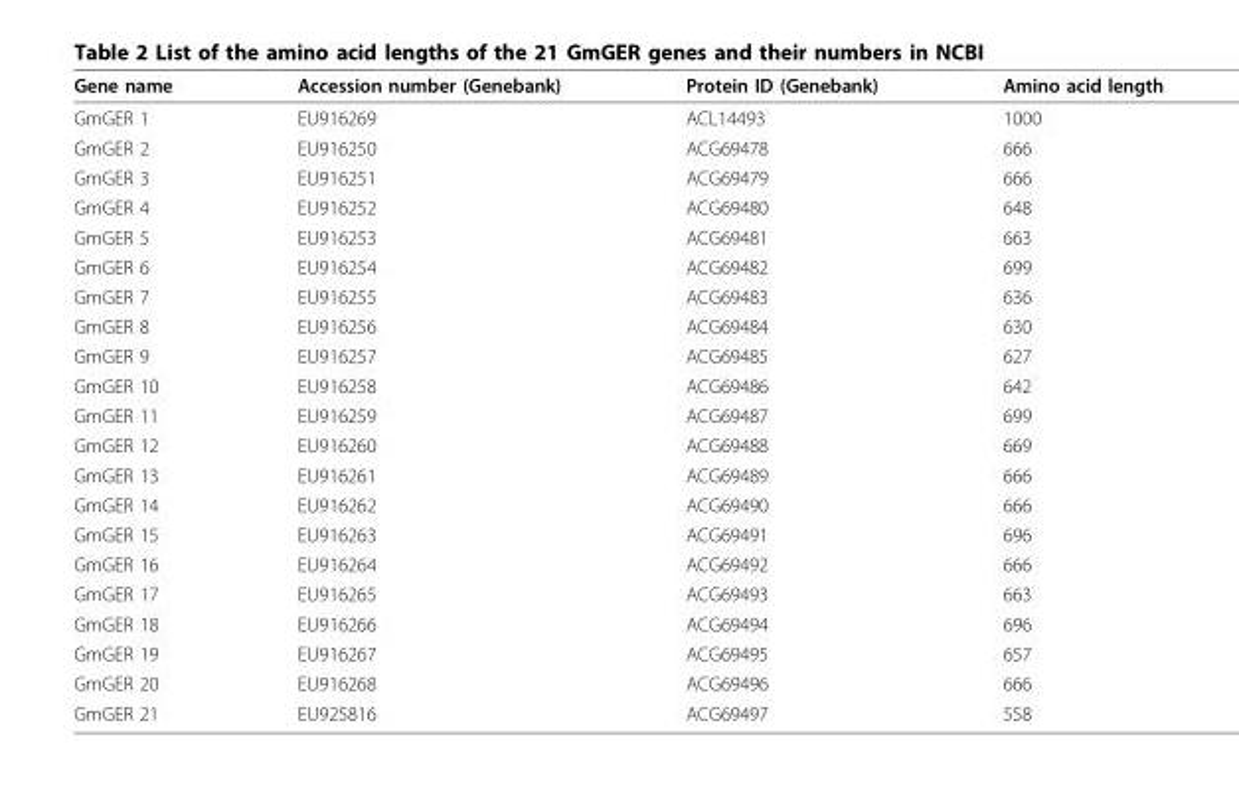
<table><thead><tr><td>Gene name</td><td>Accession number (Genebank)</td><td>Protein ID (Genebank)</td><td>Amino acid length</td></tr></thead><tbody><tr><td>GmGER 1</td><td>EU916269</td><td>ACL14493</td><td>1000</td></tr><tr><td>GmGER 2</td><td>EU916250</td><td>ACG69478</td><td>666</td></tr><tr><td>GmGER 3</td><td>EU916251</td><td>ACG69479</td><td>666</td></tr><tr><td>GmGER 4</td><td>EU916252</td><td>ACG69480</td><td>648</td></tr><tr><td>GmGER 5</td><td>EU916253</td><td>ACG69481</td><td>663</td></tr><tr><td>GmGER 6</td><td>EU916254</td><td>ACG69482</td><td>699</td></tr><tr><td>GmGER 7</td><td>EU916255</td><td>ACG69483</td><td>636</td></tr><tr><td>GmGER 8</td><td>EU916256</td><td>ACG69484</td><td>630</td></tr><tr><td>GmGER 9</td><td>EU916257</td><td>ACG69485</td><td>627</td></tr><tr><td>GmGER 10</td><td>EU916258</td><td>ACG69486</td><td>642</td></tr><tr><td>GmGER 11</td><td>EU916259</td><td>ACG69487</td><td>699</td></tr><tr><td>GmGER 12</td><td>EU916260</td><td>ACG69488</td><td>669</td></tr><tr><td>GmGER 13</td><td>EU916261</td><td>ACG69489</td><td>666</td></tr><tr><td>GmGER 14</td><td>EU916262</td><td>ACG69490</td><td>666</td></tr><tr><td>GmGER 15</td><td>EU916263</td><td>ACG69491</td><td>696</td></tr><tr><td>GmGER 16</td><td>EU916264</td><td>ACG69492</td><td>666</td></tr><tr><td>GmGER 17</td><td>EU916265</td><td>ACG69493</td><td>663</td></tr><tr><td>GmGER 18</td><td>EU916266</td><td>ACG69494</td><td>696</td></tr><tr><td>GmGER 19</td><td>EU916267</td><td>ACG69495</td><td>657</td></tr><tr><td>GmGER 20</td><td>EU916268</td><td>ACG69496</td><td>666</td></tr><tr><td>GmGER 21</td><td>EU925816</td><td>ACG69497</td><td>558</td></tr></tbody></table>